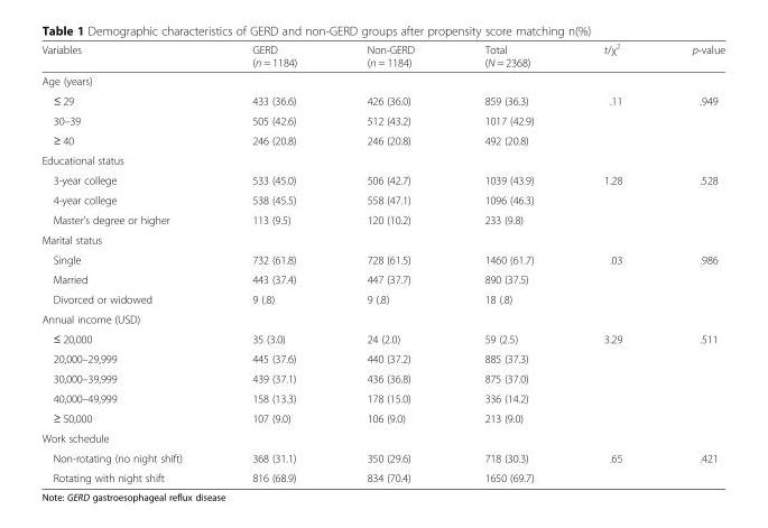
<table><thead><tr><td>Variables</td><td>GERD (n = 1184)</td><td>Non-GERD (n = 1184)</td><td>Total (N = 2368)</td><td>t/χ<sup>2</sup></td><td>p-value</td></tr></thead><tbody><tr><td colspan="6">Age (years)</td></tr><tr><td>≤ 29</td><td>433 (36.6)</td><td>426 (36.0)</td><td>859 (36.3)</td><td>.11</td><td>.949</td></tr><tr><td>30–39</td><td>505 (42.6)</td><td>512 (43.2)</td><td>1017 (42.9)</td><td></td><td></td></tr><tr><td>≥ 40</td><td>246 (20.8)</td><td>246 (20.8)</td><td>492 (20.8)</td><td></td><td></td></tr><tr><td colspan="6">Educational status</td></tr><tr><td>3-year college</td><td>533 (45.0)</td><td>506 (42.7)</td><td>1039 (43.9)</td><td>1.28</td><td>.528</td></tr><tr><td>4-year college</td><td>538 (45.5)</td><td>558 (47.1)</td><td>1096 (46.3)</td><td></td><td></td></tr><tr><td>Master’s degree or higher</td><td>113 (9.5)</td><td>120 (10.2)</td><td>233 (9.8)</td><td></td><td></td></tr><tr><td colspan="6">Marital status</td></tr><tr><td>Single</td><td>732 (61.8)</td><td>728 (61.5)</td><td>1460 (61.7)</td><td>.03</td><td>.986</td></tr><tr><td>Married</td><td>443 (37.4)</td><td>447 (37.7)</td><td>890 (37.5)</td><td></td><td></td></tr><tr><td>Divorced or widowed</td><td>9 (.8)</td><td>9 (.8)</td><td>18 (.8)</td><td></td><td></td></tr><tr><td colspan="6">Annual income (USD)</td></tr><tr><td>≤ 20,000</td><td>35 (3.0)</td><td>24 (2.0)</td><td>59 (2.5)</td><td>3.29</td><td>.511</td></tr><tr><td>20,000–29,999</td><td>445 (37.6)</td><td>440 (37.2)</td><td>885 (37.3)</td><td></td><td></td></tr><tr><td>30,000–39,999</td><td>439 (37.1)</td><td>436 (36.8)</td><td>875 (37.0)</td><td></td><td></td></tr><tr><td>40,000–49,999</td><td>158 (13.3)</td><td>178 (15.0)</td><td>336 (14.2)</td><td></td><td></td></tr><tr><td>≥ 50,000</td><td>107 (9.0)</td><td>106 (9.0)</td><td>213 (9.0)</td><td></td><td></td></tr><tr><td colspan="6">Work schedule</td></tr><tr><td>Non-rotating (no night shift)</td><td>368 (31.1)</td><td>350 (29.6)</td><td>718 (30.3)</td><td>.65</td><td>.421</td></tr><tr><td>Rotating with night shift</td><td>816 (68.9)</td><td>834 (70.4)</td><td>1650 (69.7)</td><td></td><td></td></tr></tbody></table>